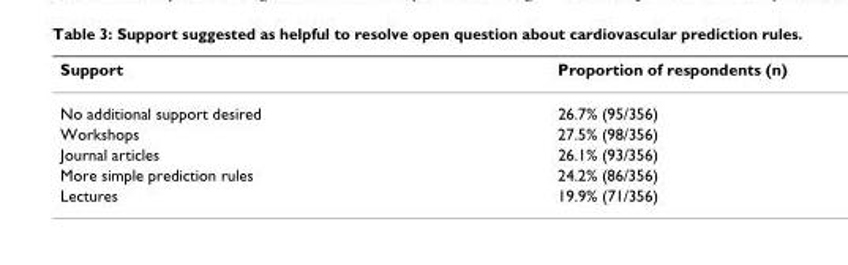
<table><thead><tr><td>Support</td><td>Proportion of respondents (n)</td></tr></thead><tbody><tr><td>No additional support desired</td><td>26.7% (95/356)</td></tr><tr><td>Workshops</td><td>27.5% (98/356)</td></tr><tr><td>Journal articles</td><td>26.1% (93/356)</td></tr><tr><td>More simple prediction rules</td><td>24.2% (86/356)</td></tr><tr><td>Lectures</td><td>19.9% (71/356)</td></tr></tbody></table>